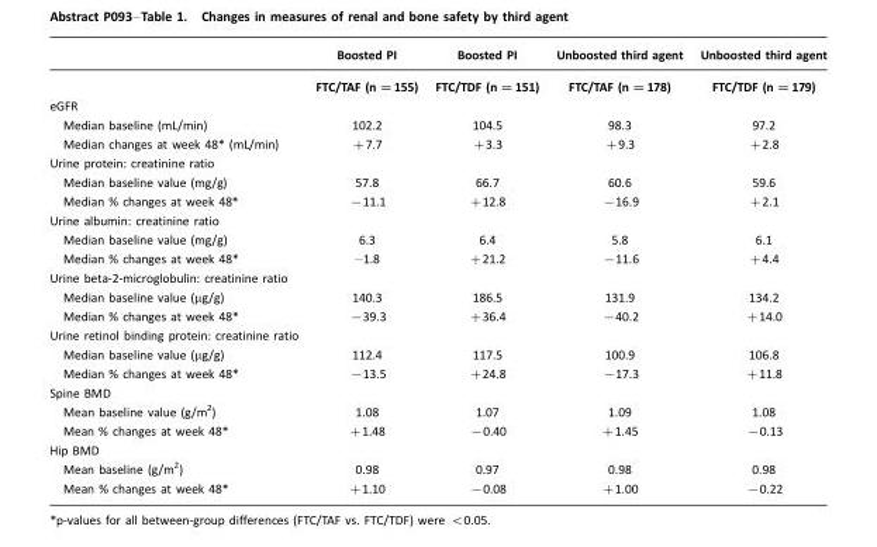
<table><thead><tr><td></td><td>Boosted PI</td><td>Boosted PI</td><td>Unboosted third agent</td><td>Unboosted third agent</td></tr></thead><tbody><tr><td></td><td>FTC/TAF (n =155)</td><td>FTC/TDF (n =151)</td><td>FTC/TAF (n =178)</td><td>FTC/TDF (n =179)</td></tr><tr><td colspan="5">eGFR</td></tr><tr><td>Median baseline (mL/min)</td><td>102.2</td><td>104.5</td><td>98.3</td><td>97.2</td></tr><tr><td>Median changes at week 48* (mL/min)</td><td>+7.7</td><td>+3.3</td><td>+9.3</td><td>+2.8</td></tr><tr><td colspan="5">Urine protein: creatinine ratio</td></tr><tr><td>Median baseline value (mg/g)</td><td>57.8</td><td>66.7</td><td>60.6</td><td>59.6</td></tr><tr><td>Median % changes at week 48*</td><td>−11.1</td><td>+12.8</td><td>−16.9</td><td>+2.1</td></tr><tr><td colspan="5">Urine albumin: creatinine ratio</td></tr><tr><td>Median baseline value (mg/g)</td><td>6.3</td><td>6.4</td><td>5.8</td><td>6.1</td></tr><tr><td>Median % changes at week 48*</td><td>–1.8</td><td>+21.2</td><td>−11.6</td><td>+4.4</td></tr><tr><td colspan="5">Urine beta-2-microglobulin: creatinine ratio</td></tr><tr><td>Median baseline value (µg/g)</td><td>140.3</td><td>186.5</td><td>131.9</td><td>134.2</td></tr><tr><td>Median % changes at week 48*</td><td>−39.3</td><td>+36.4</td><td>−40.2</td><td>+14.0</td></tr><tr><td colspan="5">Urine retinol binding protein: creatinine ratio</td></tr><tr><td>Median baseline value (µg/g)</td><td>112.4</td><td>117.5</td><td>100.9</td><td>106.8</td></tr><tr><td>Median % changes at week 48*</td><td>−13.5</td><td>+24.8</td><td>−17.3</td><td>+11.8</td></tr><tr><td colspan="5">Spine BMD</td></tr><tr><td>Mean baseline value (g/m2)</td><td>1.08</td><td>1.07</td><td>1.09</td><td>1.08</td></tr><tr><td>Mean % changes at week 48*</td><td>+1.48</td><td>−0.40</td><td>+1.45</td><td>−0.13</td></tr><tr><td colspan="5">Hip BMD</td></tr><tr><td>Mean baseline (g/m2)</td><td>0.98</td><td>0.97</td><td>0.98</td><td>0.98</td></tr><tr><td>Mean % changes at week 48*</td><td>+1.10</td><td>−0.08</td><td>+1.00</td><td>−0.22</td></tr></tbody></table>